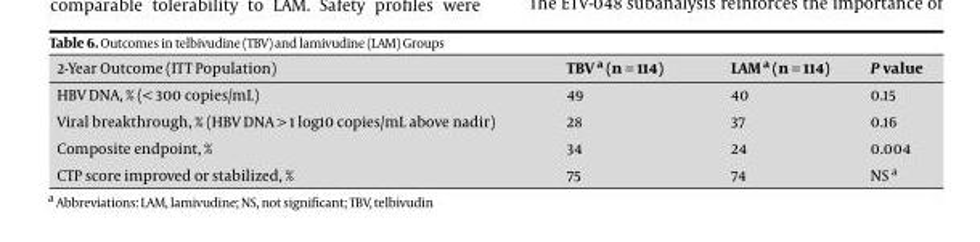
<table><thead><tr><td>2-Year Outcome (ITT Population)</td><td>TBV a (n = 114)</td><td>LAM a (n = 114)</td><td>P value</td></tr></thead><tbody><tr><td>HBV DNA, % (&lt; 300 copies/mL)</td><td>49</td><td>40</td><td>0.15</td></tr><tr><td>Viral breakthrough, % (HBV DNA &gt; 1 log10 copies/mL above nadir)</td><td>28</td><td>37</td><td>0.16</td></tr><tr><td>Composite endpoint, %</td><td>34</td><td>24</td><td>0.004</td></tr><tr><td>CTP score improved or stabilized, %</td><td>75</td><td>74</td><td>NS a</td></tr></tbody></table>